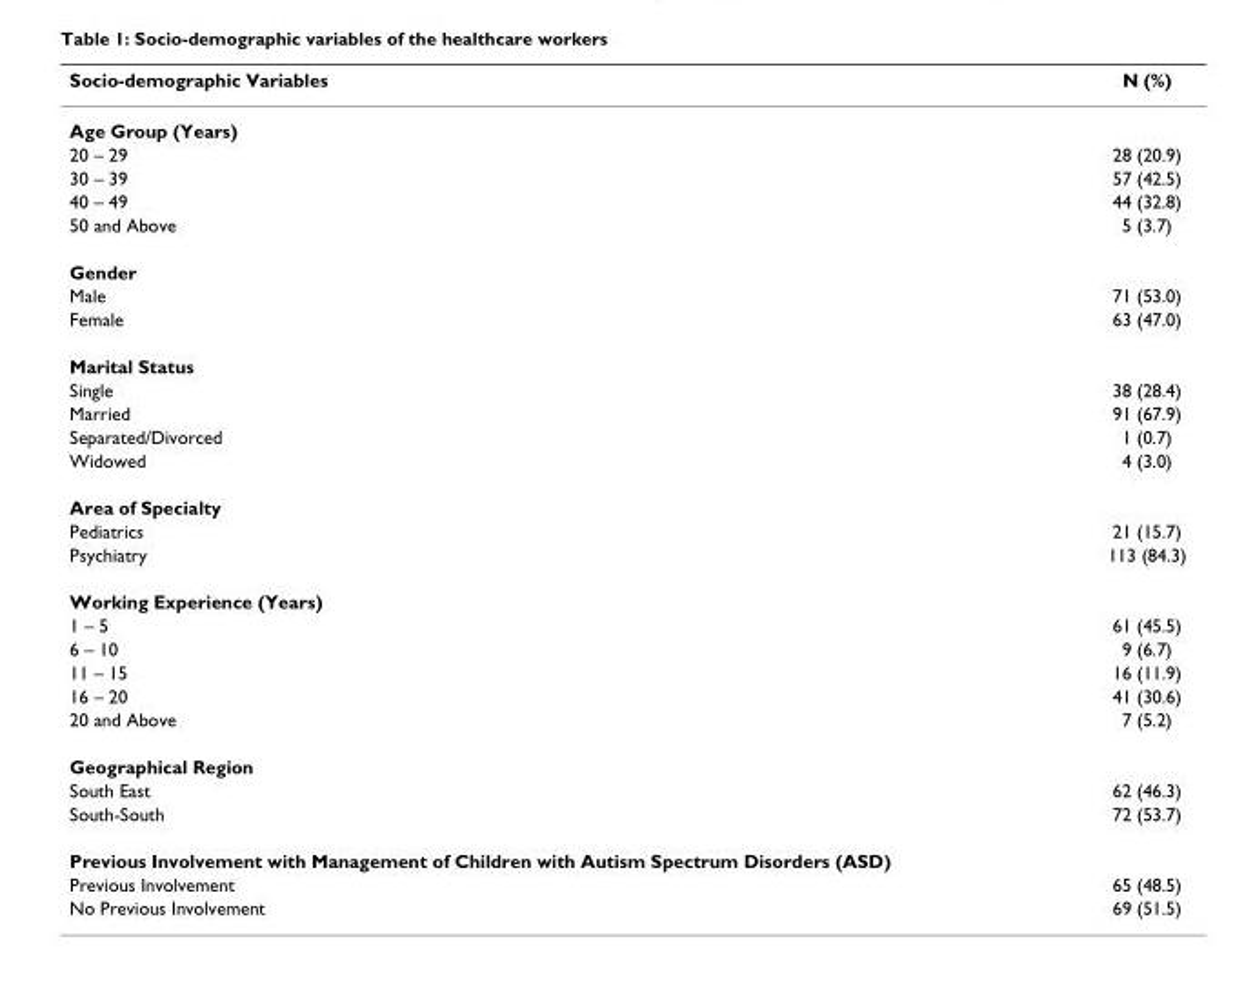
<table><thead><tr><td>Socio-demographic Variables</td><td>N (%)</td></tr></thead><tbody><tr><td colspan="2">Age Group (Years)</td></tr><tr><td>20 – 29</td><td>28 (20.9)</td></tr><tr><td>30 – 39</td><td>57 (42.5)</td></tr><tr><td>40 – 49</td><td>44 (32.8)</td></tr><tr><td>50 and Above</td><td>5 (3.7)</td></tr><tr><td colspan="2">Gender</td></tr><tr><td>Male</td><td>71 (53.0)</td></tr><tr><td>Female</td><td>63 (47.0)</td></tr><tr><td colspan="2">Marital Status</td></tr><tr><td>Single</td><td>38 (28.4)</td></tr><tr><td>Married</td><td>91 (67.9)</td></tr><tr><td>Separated/Divorced</td><td>1 (0.7)</td></tr><tr><td>Widowed</td><td>4 (3.0)</td></tr><tr><td colspan="2">Area of Specialty</td></tr><tr><td>Pediatrics</td><td>21 (15.7)</td></tr><tr><td>Psychiatry</td><td>113 (84.3)</td></tr><tr><td colspan="2">Working Experience (Years)</td></tr><tr><td>1 – 5</td><td>61 (45.5)</td></tr><tr><td>6 – 10</td><td>9 (6.7)</td></tr><tr><td>11 – 15</td><td>16 (11.9)</td></tr><tr><td>16 – 20</td><td>41 (30.6)</td></tr><tr><td>20 and Above</td><td>7 (5.2)</td></tr><tr><td colspan="2">Geographical Region</td></tr><tr><td>South East</td><td>62 (46.3)</td></tr><tr><td>South-South</td><td>72 (53.7)</td></tr><tr><td colspan="2">Previous Involvement with Management of Children with Autism Spectrum Disorders (ASD)</td></tr><tr><td>Previous Involvement</td><td>65 (48.5)</td></tr><tr><td>No Previous Involvement</td><td>69 (51.5)</td></tr></tbody></table>